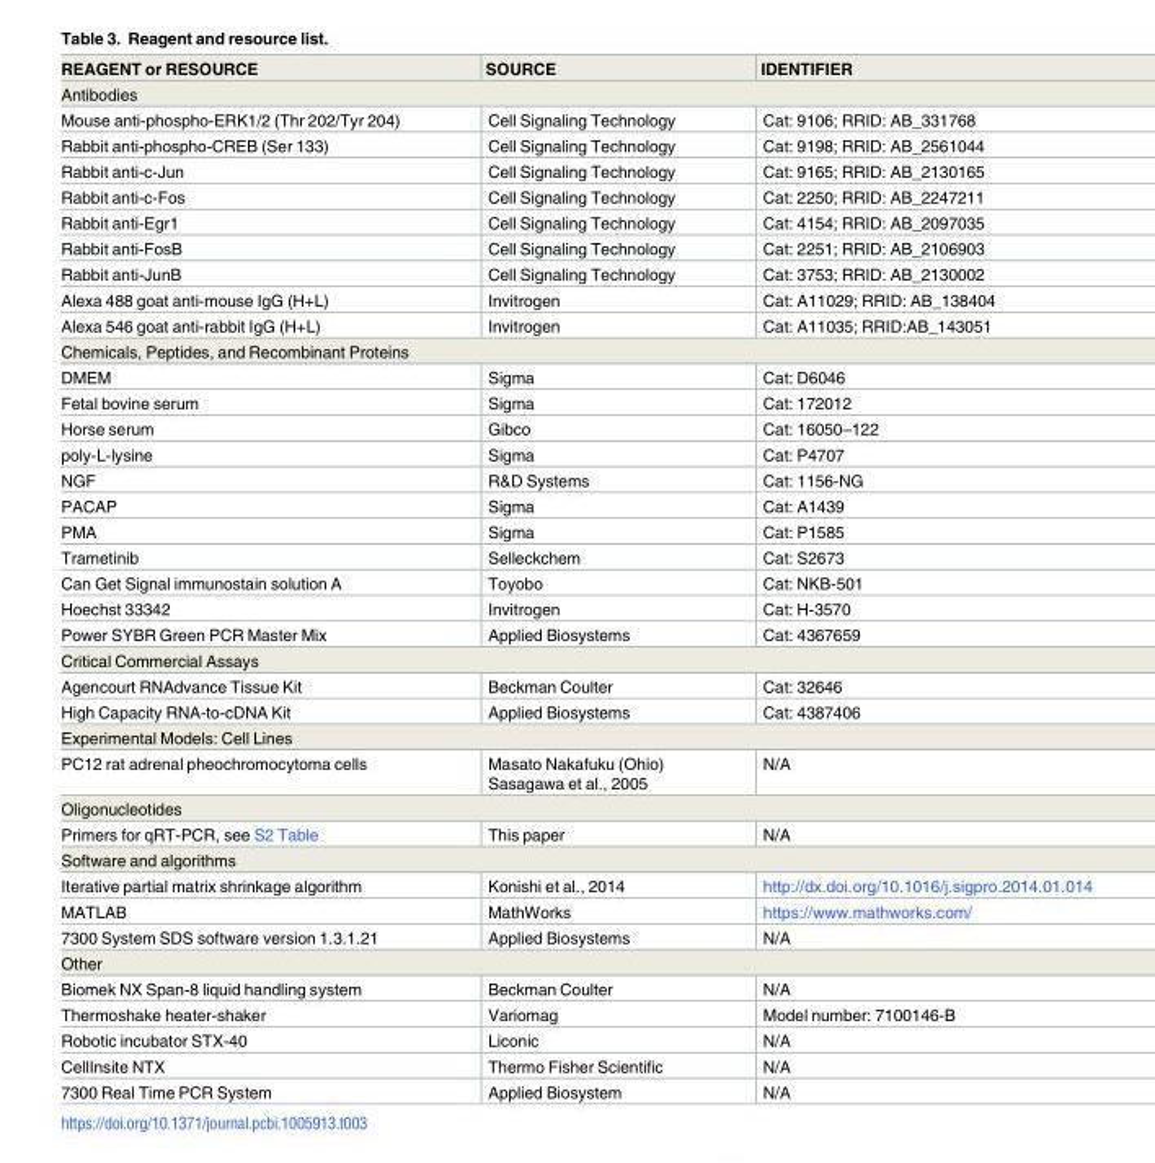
<table><thead><tr><td>REAGENT or RESOURCE</td><td>SOURCE</td><td>IDENTIFIER</td></tr></thead><tbody><tr><td colspan="3">Antibodies</td></tr><tr><td>Mouse anti-phospho-ERK1/2 (Thr 202/Tyr 204)</td><td>Cell Signaling Technology</td><td>Cat: 9106; RRID: AB_331768</td></tr><tr><td>Rabbit anti-phospho-CREB (Ser 133)</td><td>Cell Signaling Technology</td><td>Cat: 9198; RRID: AB_2561044</td></tr><tr><td>Rabbit anti-c-Jun</td><td>Cell Signaling Technology</td><td>Cat: 9165; RRID: AB_2130165</td></tr><tr><td>Rabbit anti-c-Fos</td><td>Cell Signaling Technology</td><td>Cat: 2250; RRID: AB_2247211</td></tr><tr><td>Rabbit anti-Egr1</td><td>Cell Signaling Technology</td><td>Cat: 4154; RRID: AB_2097035</td></tr><tr><td>Rabbit anti-FosB</td><td>Cell Signaling Technology</td><td>Cat: 2251; RRID: AB_2106903</td></tr><tr><td>Rabbit anti-JunB</td><td>Cell Signaling Technology</td><td>Cat: 3753; RRID: AB_2130002</td></tr><tr><td>Alexa 488 goat anti-mouse IgG (H+L)</td><td>Invitrogen</td><td>Cat: A11029; RRID: AB_138404</td></tr><tr><td>Alexa 546 goat anti-rabbit IgG (H+L)</td><td>Invitrogen</td><td>Cat: A11035; RRID:AB_143051</td></tr><tr><td colspan="3">Chemicals, Peptides, and Recombinant Proteins</td></tr><tr><td>DMEM</td><td>Sigma</td><td>Cat: D6046</td></tr><tr><td>Fetal bovine serum</td><td>Sigma</td><td>Cat: 172012</td></tr><tr><td>Horse serum</td><td>Gibco</td><td>Cat: 16050–122</td></tr><tr><td>poly-L-lysine</td><td>Sigma</td><td>Cat: P4707</td></tr><tr><td>NGF</td><td>R&amp;D Systems</td><td>Cat: 1156-NG</td></tr><tr><td>PACAP</td><td>Sigma</td><td>Cat: A1439</td></tr><tr><td>PMA</td><td>Sigma</td><td>Cat: P1585</td></tr><tr><td>Trametinib</td><td>Selleckchem</td><td>Cat: S2673</td></tr><tr><td>Can Get Signal immunostain solution A</td><td>Toyobo</td><td>Cat: NKB-501</td></tr><tr><td>Hoechst 33342</td><td>Invitrogen</td><td>Cat: H-3570</td></tr><tr><td>Power SYBR Green PCR Master Mix</td><td>Applied Biosystems</td><td>Cat: 4367659</td></tr><tr><td colspan="3">Critical Commercial Assays</td></tr><tr><td>Agencourt RNAdvance Tissue Kit</td><td>Beckman Coulter</td><td>Cat: 32646</td></tr><tr><td>High Capacity RNA-to-cDNA Kit</td><td>Applied Biosystems</td><td>Cat: 4387406</td></tr><tr><td colspan="3">Experimental Models: Cell Lines</td></tr><tr><td>PC12 rat adrenal pheochromocytoma cells</td><td>Masato Nakafuku (Ohio) Sasagawa et al., 2005</td><td>N/A</td></tr><tr><td colspan="3">Oligonucleotides</td></tr><tr><td>Primers for qRT-PCR, see S2 Table</td><td>This paper</td><td>N/A</td></tr><tr><td colspan="3">Software and algorithms</td></tr><tr><td>Iterative partial matrix shrinkage algorithm</td><td>Konishi et al., 2014</td><td>http://dx.doi.org/10.1016/j.sigpro.2014.01.014</td></tr><tr><td>MATLAB</td><td>MathWorks</td><td>https://www.mathworks.com/</td></tr><tr><td>7300 System SDS software version 1.3.1.21</td><td>Applied Biosystems</td><td>N/A</td></tr><tr><td colspan="3">Other</td></tr><tr><td>Biomek NX Span-8 liquid handling system</td><td>Beckman Coulter</td><td>N/A</td></tr><tr><td>Thermoshake heater-shaker</td><td>Variomag</td><td>Model number: 7100146-B</td></tr><tr><td>Robotic incubator STX-40</td><td>Liconic</td><td>N/A</td></tr><tr><td>CellInsite NTX</td><td>Thermo Fisher Scientific</td><td>N/A</td></tr><tr><td>7300 Real Time PCR System</td><td>Applied Biosystem</td><td>N/A</td></tr></tbody></table>